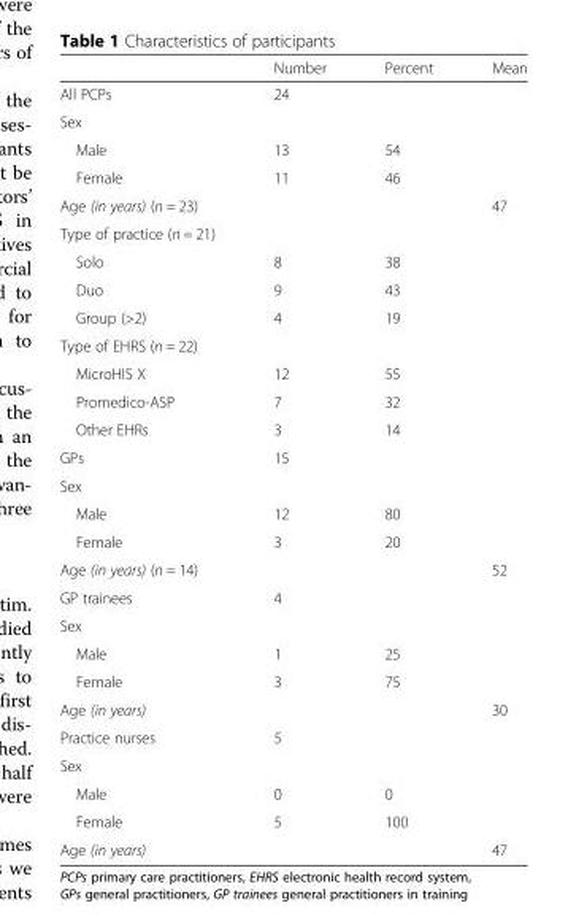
<table><thead><tr><td></td><td>Number</td><td>Percent</td><td>Mean</td></tr></thead><tbody><tr><td>All PCPs</td><td>24</td><td></td><td></td></tr><tr><td colspan="4">Sex</td></tr><tr><td>Male</td><td>13</td><td>54</td><td></td></tr><tr><td>Female</td><td>11</td><td>46</td><td></td></tr><tr><td>Age (in years) (n = 23)</td><td></td><td></td><td>47</td></tr><tr><td colspan="4">Type of practice (n = 21)</td></tr><tr><td>Solo</td><td>8</td><td>38</td><td></td></tr><tr><td>Duo</td><td>9</td><td>43</td><td></td></tr><tr><td>Group (&gt;2)</td><td>4</td><td>19</td><td></td></tr><tr><td colspan="4">Type of EHRS (n = 22)</td></tr><tr><td>MicroHIS X</td><td>12</td><td>55</td><td></td></tr><tr><td>Promedico-ASP</td><td>7</td><td>32</td><td></td></tr><tr><td>Other EHRs</td><td>3</td><td>14</td><td></td></tr><tr><td>GPs</td><td>15</td><td></td><td></td></tr><tr><td colspan="4">Sex</td></tr><tr><td>Male</td><td>12</td><td>80</td><td></td></tr><tr><td>Female</td><td>3</td><td>20</td><td></td></tr><tr><td>Age (in years) (n = 14)</td><td></td><td></td><td>52</td></tr><tr><td>GP trainees</td><td>4</td><td></td><td></td></tr><tr><td colspan="4">Sex</td></tr><tr><td>Male</td><td>1</td><td>25</td><td></td></tr><tr><td>Female</td><td>3</td><td>75</td><td></td></tr><tr><td>Age (in years)</td><td></td><td></td><td>30</td></tr><tr><td>Practice nurses</td><td>5</td><td></td><td></td></tr><tr><td colspan="4">Sex</td></tr><tr><td>Male</td><td>0</td><td>0</td><td></td></tr><tr><td>Female</td><td>5</td><td>100</td><td></td></tr><tr><td>Age (in years)</td><td></td><td></td><td>47</td></tr></tbody></table>